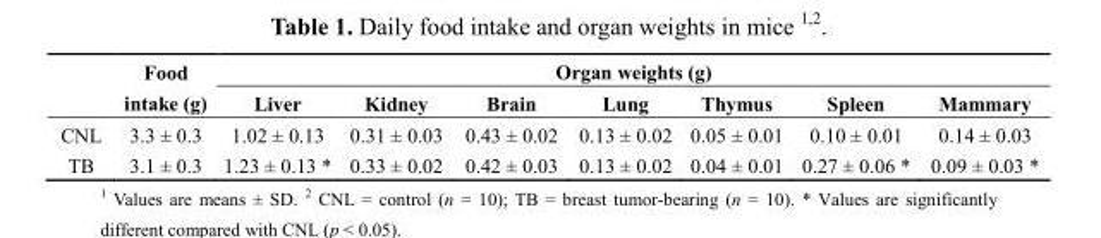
<table><thead><tr><td rowspan="2"></td><td rowspan="2">Food intake (g)</td><td colspan="7">Organ weights (g)</td></tr><tr><td>Liver</td><td>Kidney</td><td>Brain</td><td>Lung</td><td>Thymus</td><td>Spleen</td><td>Mammary</td></tr></thead><tbody><tr><td>CNL</td><td>3.3 ± 0.3</td><td>1.02 ± 0.13</td><td>0.31 ± 0.03</td><td>0.43 ± 0.02</td><td>0.13 ± 0.02</td><td>0.05 ± 0.01</td><td>0.10 ± 0.01</td><td>0.14 ± 0.03</td></tr><tr><td>TB</td><td>3.1 ± 0.3</td><td>1.23 ± 0.13 *</td><td>0.33 ± 0.02</td><td>0.42 ± 0.03</td><td>0.13 ± 0.02</td><td>0.04 ± 0.01</td><td>0.27 ± 0.06 *</td><td>0.09 ± 0.03 *</td></tr></tbody></table>